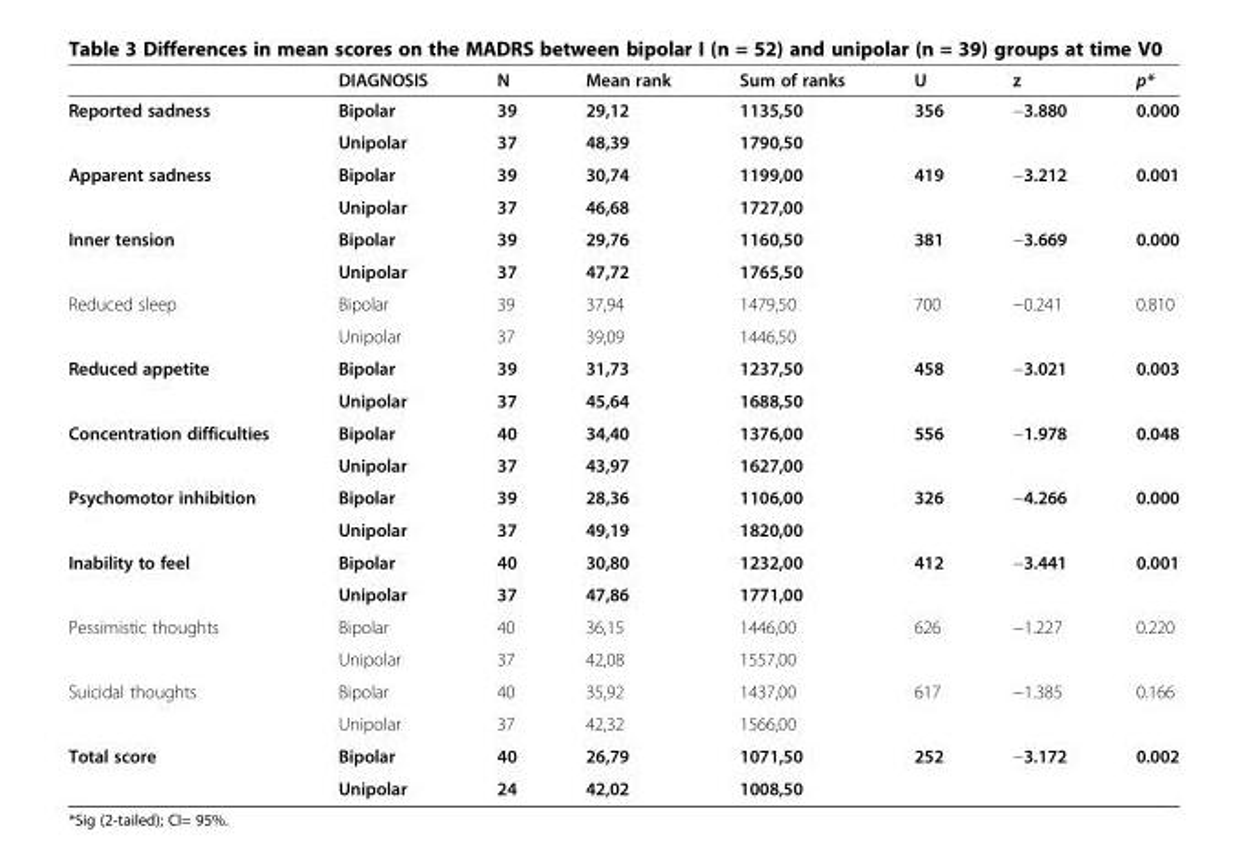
<table><thead><tr><td></td><td>DIAGNOSIS</td><td>N</td><td>Mean rank</td><td>Sum of ranks</td><td>U</td><td>z</td><td>p*</td></tr></thead><tbody><tr><td rowspan="2">Reported sadness</td><td>Bipolar</td><td>39</td><td>29,12</td><td>1135,50</td><td rowspan="2">356</td><td rowspan="2">−3.880</td><td rowspan="2">0.000</td></tr><tr><td>Unipolar</td><td>37</td><td>48,39</td><td>1790,50</td></tr><tr><td rowspan="2">Apparent sadness</td><td>Bipolar</td><td>39</td><td>30,74</td><td>1199,00</td><td rowspan="2">419</td><td rowspan="2">−3.212</td><td rowspan="2">0.001</td></tr><tr><td>Unipolar</td><td>37</td><td>46,68</td><td>1727,00</td></tr><tr><td rowspan="2">Inner tension</td><td>Bipolar</td><td>39</td><td>29,76</td><td>1160,50</td><td rowspan="2">381</td><td rowspan="2">−3.669</td><td rowspan="2">0.000</td></tr><tr><td>Unipolar</td><td>37</td><td>47,72</td><td>1765,50</td></tr><tr><td rowspan="2">Reduced sleep</td><td>Bipolar</td><td>39</td><td>37,94</td><td>1479,50</td><td rowspan="2">700</td><td rowspan="2">−0.241</td><td rowspan="2">0.810</td></tr><tr><td>Unipolar</td><td>37</td><td>39,09</td><td>1446,50</td></tr><tr><td rowspan="2">Reduced appetite</td><td>Bipolar</td><td>39</td><td>31,73</td><td>1237,50</td><td rowspan="2">458</td><td rowspan="2">−3.021</td><td rowspan="2">0.003</td></tr><tr><td>Unipolar</td><td>37</td><td>45,64</td><td>1688,50</td></tr><tr><td rowspan="2">Concentration difficulties</td><td>Bipolar</td><td>40</td><td>34,40</td><td>1376,00</td><td rowspan="2">556</td><td rowspan="2">−1.978</td><td rowspan="2">0.048</td></tr><tr><td>Unipolar</td><td>37</td><td>43,97</td><td>1627,00</td></tr><tr><td rowspan="2">Psychomotor inhibition</td><td>Bipolar</td><td>39</td><td>28,36</td><td>1106,00</td><td rowspan="2">326</td><td rowspan="2">−4.266</td><td rowspan="2">0.000</td></tr><tr><td>Unipolar</td><td>37</td><td>49,19</td><td>1820,00</td></tr><tr><td rowspan="2">Inability to feel</td><td>Bipolar</td><td>40</td><td>30,80</td><td>1232,00</td><td rowspan="2">412</td><td rowspan="2">−3.441</td><td rowspan="2">0.001</td></tr><tr><td>Unipolar</td><td>37</td><td>47,86</td><td>1771,00</td></tr><tr><td rowspan="2">Pessimistic thoughts</td><td>Bipolar</td><td>40</td><td>36,15</td><td>1446,00</td><td rowspan="2">626</td><td rowspan="2">−1.227</td><td rowspan="2">0.220</td></tr><tr><td>Unipolar</td><td>37</td><td>42,08</td><td>1557,00</td></tr><tr><td rowspan="2">Suicidal thoughts</td><td>Bipolar</td><td>40</td><td>35,92</td><td>1437,00</td><td rowspan="2">617</td><td rowspan="2">−1.385</td><td rowspan="2">0.166</td></tr><tr><td>Unipolar</td><td>37</td><td>42,32</td><td>1566,00</td></tr><tr><td rowspan="2">Total score</td><td>Bipolar</td><td>40</td><td>26,79</td><td>1071,50</td><td rowspan="2">252</td><td rowspan="2">−3.172</td><td rowspan="2">0.002</td></tr><tr><td>Unipolar</td><td>24</td><td>42,02</td><td>1008,50</td></tr></tbody></table>